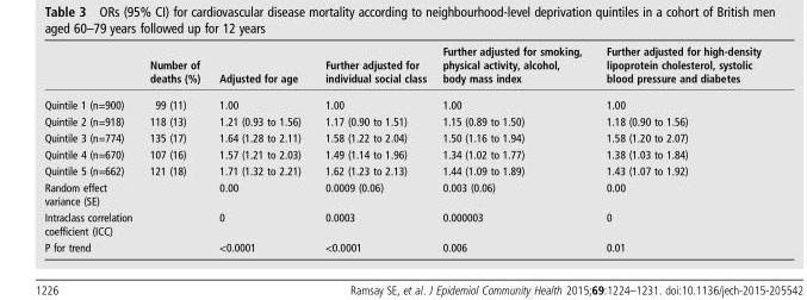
<table><thead><tr><td></td><td>Number of deaths (%)</td><td>Adjusted for age</td><td>Further adjusted for individual social class</td><td>Further adjusted for smoking, physical activity, alcohol, body mass index</td><td>Further adjusted for high-density lipoprotein cholesterol, systolic blood pressure and diabetes</td></tr></thead><tbody><tr><td>Quintile 1 (n=900)</td><td>99 (11)</td><td>1.00</td><td>1.00</td><td>1.00</td><td>1.00</td></tr><tr><td>Quintile 2 (n=918)</td><td>118 (13)</td><td>1.21 (0.93 to 1.56)</td><td>1.17 (0.90 to 1.51)</td><td>1.15 (0.89 to 1.50)</td><td>1.18 (0.90 to 1.56)</td></tr><tr><td>Quintile 3 (n=774)</td><td>135 (17)</td><td>1.64 (1.28 to 2.11)</td><td>1.58 (1.22 to 2.04)</td><td>1.50 (1.16 to 1.94)</td><td>1.58 (1.20 to 2.07)</td></tr><tr><td>Quintile 4 (n=670)</td><td>107 (16)</td><td>1.57 (1.21 to 2.03)</td><td>1.49 (1.14 to 1.96)</td><td>1.34 (1.02 to 1.77)</td><td>1.38 (1.03 to 1.84)</td></tr><tr><td>Quintile 5 (n=662)</td><td>121 (18)</td><td>1.71 (1.32 to 2.21)</td><td>1.62 (1.23 to 2.13)</td><td>1.44 (1.09 to 1.89)</td><td>1.43 (1.07 to 1.92)</td></tr><tr><td>Random effect variance (SE)</td><td></td><td>0.00</td><td>0.0009 (0.06)</td><td>0.003 (0.06)</td><td>0.00</td></tr><tr><td>Intraclass correlation coefficient (ICC)</td><td></td><td>0</td><td>0.0003</td><td>0.000003</td><td>0</td></tr><tr><td>P for trend</td><td></td><td>&lt;0.0001</td><td>&lt;0.0001</td><td>0.006</td><td>0.01</td></tr></tbody></table>